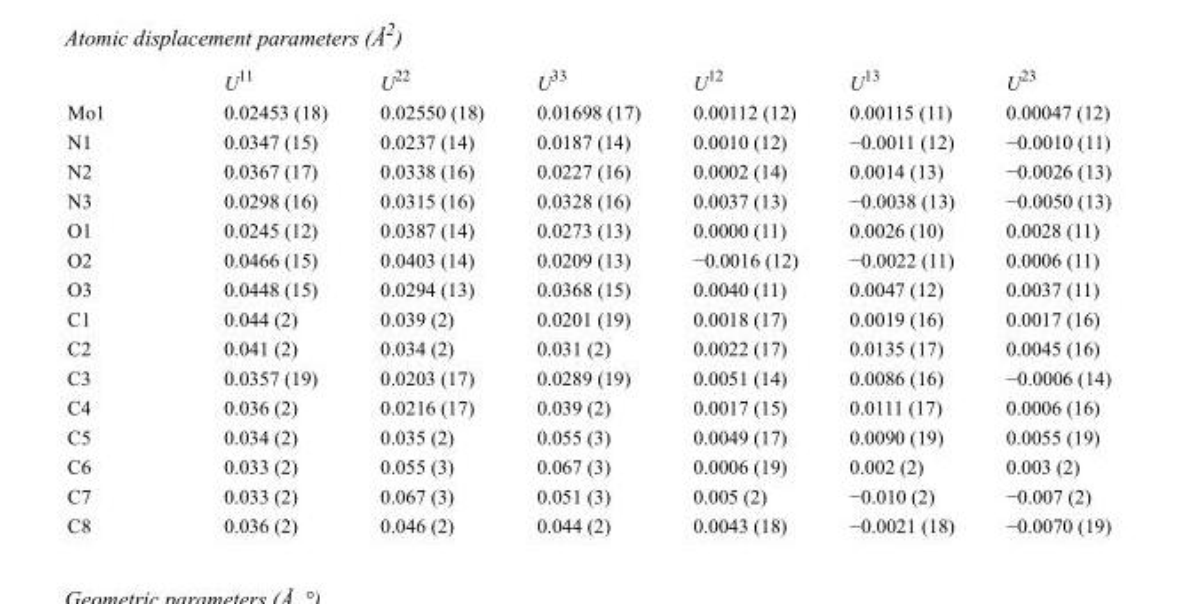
<table><thead><tr><td></td><td>U<sup>11</sup></td><td>U<sup>22</sup></td><td>U<sup>33</sup></td><td>U<sup>12</sup></td><td>U<sup>13</sup></td><td>U<sup>23</sup></td></tr></thead><tbody><tr><td>Mo1</td><td>0.02453 (18)</td><td>0.02550 (18)</td><td>0.01698 (17)</td><td>0.00112 (12)</td><td>0.00115 (11)</td><td>0.00047 (12)</td></tr><tr><td>N1</td><td>0.0347 (15)</td><td>0.0237 (14)</td><td>0.0187 (14)</td><td>0.0010 (12)</td><td>−0.0011 (12)</td><td>−0.0010 (11)</td></tr><tr><td>N2</td><td>0.0367 (17)</td><td>0.0338 (16)</td><td>0.0227 (16)</td><td>0.0002 (14)</td><td>0.0014 (13)</td><td>−0.0026 (13)</td></tr><tr><td>N3</td><td>0.0298 (16)</td><td>0.0315 (16)</td><td>0.0328 (16)</td><td>0.0037 (13)</td><td>−0.0038 (13)</td><td>−0.0050 (13)</td></tr><tr><td>O1</td><td>0.0245 (12)</td><td>0.0387 (14)</td><td>0.0273 (13)</td><td>0.0000 (11)</td><td>0.0026 (10)</td><td>0.0028 (11)</td></tr><tr><td>O2</td><td>0.0466 (15)</td><td>0.0403 (14)</td><td>0.0209 (13)</td><td>−0.0016 (12)</td><td>−0.0022 (11)</td><td>0.0006 (11)</td></tr><tr><td>O3</td><td>0.0448 (15)</td><td>0.0294 (13)</td><td>0.0368 (15)</td><td>0.0040 (11)</td><td>0.0047 (12)</td><td>0.0037 (11)</td></tr><tr><td>C1</td><td>0.044 (2)</td><td>0.039 (2)</td><td>0.0201 (19)</td><td>0.0018 (17)</td><td>0.0019 (16)</td><td>0.0017 (16)</td></tr><tr><td>C2</td><td>0.041 (2)</td><td>0.034 (2)</td><td>0.031 (2)</td><td>0.0022 (17)</td><td>0.0135 (17)</td><td>0.0045 (16)</td></tr><tr><td>C3</td><td>0.0357 (19)</td><td>0.0203 (17)</td><td>0.0289 (19)</td><td>0.0051 (14)</td><td>0.0086 (16)</td><td>−0.0006 (14)</td></tr><tr><td>C4</td><td>0.036 (2)</td><td>0.0216 (17)</td><td>0.039 (2)</td><td>0.0017 (15)</td><td>0.0111 (17)</td><td>0.0006 (16)</td></tr><tr><td>C5</td><td>0.034 (2)</td><td>0.035 (2)</td><td>0.055 (3)</td><td>0.0049 (17)</td><td>0.0090 (19)</td><td>0.0055 (19)</td></tr><tr><td>C6</td><td>0.033 (2)</td><td>0.055 (3)</td><td>0.067 (3)</td><td>0.0006 (19)</td><td>0.002 (2)</td><td>0.003 (2)</td></tr><tr><td>C7</td><td>0.033 (2)</td><td>0.067 (3)</td><td>0.051 (3)</td><td>0.005 (2)</td><td>−0.010 (2)</td><td>−0.007 (2)</td></tr><tr><td>C8</td><td>0.036 (2)</td><td>0.046 (2)</td><td>0.044 (2)</td><td>0.0043 (18)</td><td>−0.0021 (18)</td><td>−0.0070 (19)</td></tr></tbody></table>